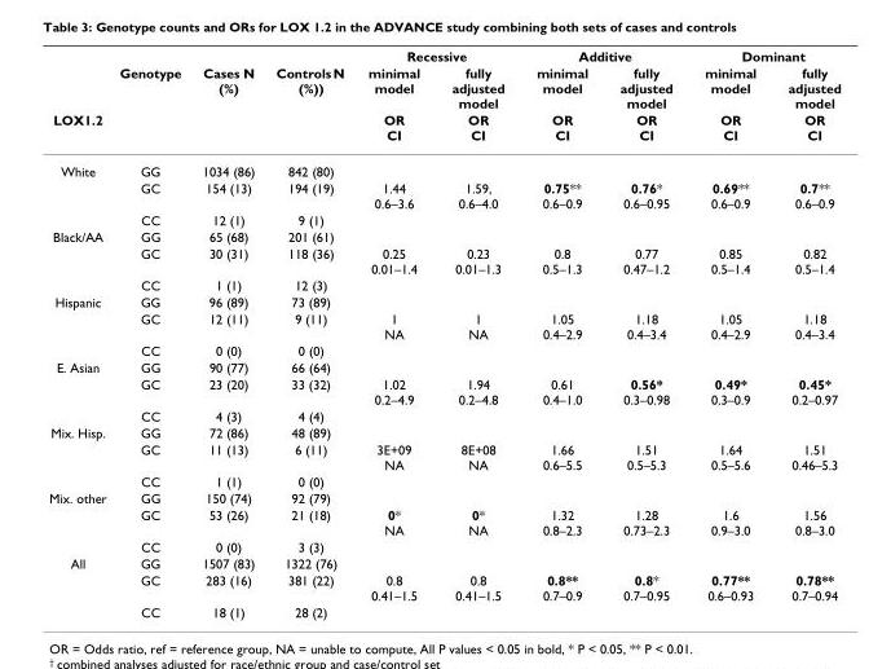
<table><thead><tr><td rowspan="3">LOX1.2</td><td rowspan="3">Genotype</td><td rowspan="3">Cases N (%)</td><td rowspan="3">Controls N (%))</td><td colspan="2">Recessive</td><td colspan="2">Additive</td><td colspan="2">Dominant</td></tr><tr><td rowspan="2">minimal model OR CI</td><td rowspan="2">fully adjusted model OR CI</td><td rowspan="2">minimal model OR CI</td><td rowspan="2">fully adjusted model OR CI</td><td rowspan="2">minimal model OR CI</td><td rowspan="2">fully adjusted model OR CI</td></tr><tr></tr></thead><tbody><tr><td rowspan="3">White</td><td>GG</td><td>1034 (86)</td><td>842 (80)</td><td></td><td></td><td></td><td></td><td></td><td></td></tr><tr><td>GC</td><td>154 (13)</td><td>194 (19)</td><td>1.44 0.6–3.6</td><td>1.59, 0.6–4.0</td><td>0.75** 0.6–0.9</td><td>0.76* 0.6–0.95</td><td>0.69** 0.6–0.9</td><td>0.7** 0.6–0.9</td></tr><tr><td>CC</td><td>12 (1)</td><td>9 (1)</td><td></td><td></td><td></td><td></td><td></td><td></td></tr><tr><td rowspan="3">Black/AA</td><td>GG</td><td>65 (68)</td><td>201 (61)</td><td></td><td></td><td></td><td></td><td></td><td></td></tr><tr><td>GC</td><td>30 (31)</td><td>118 (36)</td><td>0.25 0.01–1.4</td><td>0.23 0.01–1.3</td><td>0.8 0.5–1.3</td><td>0.77 0.47–1.2</td><td>0.85 0.5–1.4</td><td>0.82 0.5–1.4</td></tr><tr><td>CC</td><td>1 (1)</td><td>12 (3)</td><td></td><td></td><td></td><td></td><td></td><td></td></tr><tr><td rowspan="3">Hispanic</td><td>GG</td><td>96 (89)</td><td>73 (89)</td><td></td><td></td><td></td><td></td><td></td><td></td></tr><tr><td>GC</td><td>12 (11)</td><td>9 (11)</td><td>1 NA</td><td>1 NA</td><td>1.05 0.4–2.9</td><td>1.18 0.4–3.4</td><td>1.05 0.4–2.9</td><td>1.18 0.4–3.4</td></tr><tr><td>CC</td><td>0 (0)</td><td>0 (0)</td><td></td><td></td><td></td><td></td><td></td><td></td></tr><tr><td rowspan="3">E. Asian</td><td>GG</td><td>90 (77)</td><td>66 (64)</td><td></td><td></td><td></td><td></td><td></td><td></td></tr><tr><td>GC</td><td>23 (20)</td><td>33 (32)</td><td>1.02 0.2–4.9</td><td>1.94 0.2–4.8</td><td>0.61 0.4–1.0</td><td>0.56* 0.3–0.98</td><td>0.49* 0.3–0.9</td><td>0.45* 0.2–0.97</td></tr><tr><td>CC</td><td>4 (3)</td><td>4 (4)</td><td></td><td></td><td></td><td></td><td></td><td></td></tr><tr><td rowspan="3">Mix. Hisp.</td><td>GG</td><td>72 (86)</td><td>48 (89)</td><td></td><td></td><td></td><td></td><td></td><td></td></tr><tr><td>GC</td><td>11 (13)</td><td>6 (11)</td><td>3E+09 NA</td><td>8E+08 NA</td><td>1.66 0.6–5.5</td><td>1.51 0.5–5.3</td><td>1.64 0.5–5.6</td><td>1.51 0.46–5.3</td></tr><tr><td>CC</td><td>1 (1)</td><td>0 (0)</td><td></td><td></td><td></td><td></td><td></td><td></td></tr><tr><td rowspan="3">Mix. other</td><td>GG</td><td>150 (74)</td><td>92 (79)</td><td></td><td></td><td></td><td></td><td></td><td></td></tr><tr><td>GC</td><td>53 (26)</td><td>21 (18)</td><td>0* NA</td><td>0* NA</td><td>1.32 0.8–2.3</td><td>1.28 0.73–2.3</td><td>1.6 0.9–3.0</td><td>1.56 0.8–3.0</td></tr><tr><td>CC</td><td>0 (0)</td><td>3 (3)</td><td></td><td></td><td></td><td></td><td></td><td></td></tr><tr><td rowspan="3">All</td><td>GG</td><td>1507 (83)</td><td>1322 (76)</td><td></td><td></td><td></td><td></td><td></td><td></td></tr><tr><td>GC</td><td>283 (16)</td><td>381 (22)</td><td>0.8 0.41–1.5</td><td>0.8 0.41–1.5</td><td>0.8** 0.7–0.9</td><td>0.8* 0.7–0.95</td><td>0.77** 0.6–0.93</td><td>0.78** 0.7–0.94</td></tr><tr><td>CC</td><td>18 (1)</td><td>28 (2)</td><td></td><td></td><td></td><td></td><td></td><td></td></tr></tbody></table>